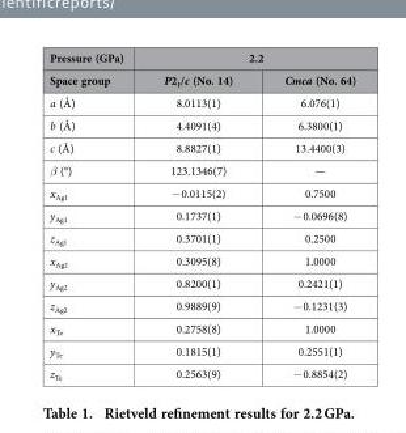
<table><thead><tr><td rowspan="2">Pressure (GPa) Space group</td><td colspan="2">2.2</td></tr><tr><td>P2<sub>1</sub>/c (No. 14)</td><td>Cmca (No. 64)</td></tr></thead><tbody><tr><td>a (Å)</td><td>8.0113(1)</td><td>6.076(1)</td></tr><tr><td>b (Å)</td><td>4.4091(4)</td><td>6.3800(1)</td></tr><tr><td>c (Å)</td><td>8.8827(1)</td><td>13.4400(3)</td></tr><tr><td>β (°)</td><td>123.1346(7)</td><td>—</td></tr><tr><td>x<sub>Ag1</sub></td><td>− 0.0115(2)</td><td>0.7500</td></tr><tr><td>y<sub>Ag1</sub></td><td>0.1737(1)</td><td>− 0.0696(8)</td></tr><tr><td>z<sub>Ag1</sub></td><td>0.3701(1)</td><td>0.2500</td></tr><tr><td>x<sub>Ag2</sub></td><td>0.3095(8)</td><td>1.0000</td></tr><tr><td>y<sub>Ag2</sub></td><td>0.8200(1)</td><td>0.2421(1)</td></tr><tr><td>z<sub>Ag2</sub></td><td>0.9889(9)</td><td>− 0.1231(3)</td></tr><tr><td>x<sub>Te</sub></td><td>0.2758(8)</td><td>1.0000</td></tr><tr><td>y<sub>Te</sub></td><td>0.1815(1)</td><td>0.2551(1)</td></tr><tr><td>z<sub>Te</sub></td><td>0.2563(9)</td><td>− 0.8854(2)</td></tr></tbody></table>